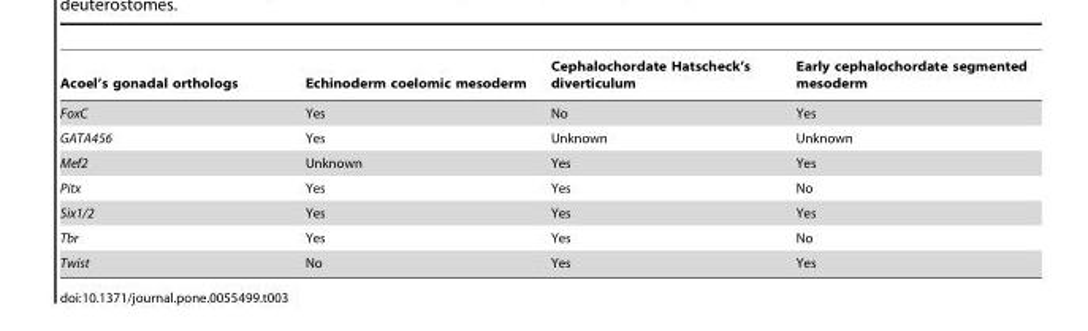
<table><thead><tr><td>Acoel’s gonadal orthologs</td><td>Echinoderm coelomic mesoderm</td><td>Cephalochordate Hatscheck’s diverticulum</td><td>Early cephalochordate segmented mesoderm</td></tr></thead><tbody><tr><td>FoxC</td><td>Yes</td><td>No</td><td>Yes</td></tr><tr><td>GATA456</td><td>Yes</td><td>Unknown</td><td>Unknown</td></tr><tr><td>Mef2</td><td>Unknown</td><td>Yes</td><td>Yes</td></tr><tr><td>Pitx</td><td>Yes</td><td>Yes</td><td>No</td></tr><tr><td>Six1/2</td><td>Yes</td><td>Yes</td><td>Yes</td></tr><tr><td>Tbr</td><td>Yes</td><td>Yes</td><td>No</td></tr><tr><td>Twist</td><td>No</td><td>Yes</td><td>Yes</td></tr></tbody></table>